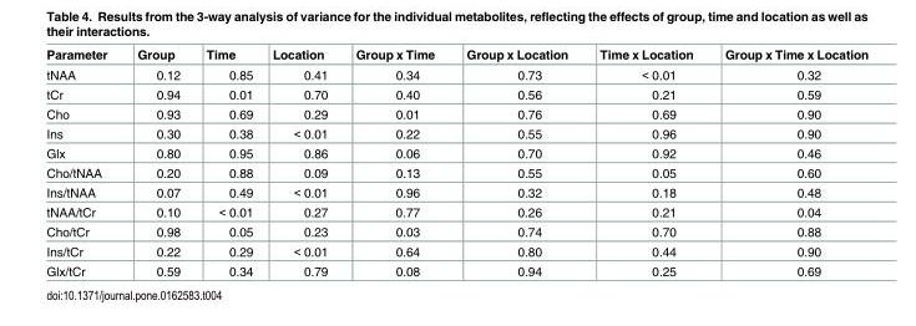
<table><thead><tr><td>Parameter</td><td>Group</td><td>Time</td><td>Location</td><td>Group x Time</td><td>Group x Location</td><td>Time x Location</td><td>Group x Time x Location</td></tr></thead><tbody><tr><td>tNAA</td><td>0.12</td><td>0.85</td><td>0.41</td><td>0.34</td><td>0.73</td><td>&lt; 0.01</td><td>0.32</td></tr><tr><td>tCr</td><td>0.94</td><td>0.01</td><td>0.70</td><td>0.40</td><td>0.56</td><td>0.21</td><td>0.59</td></tr><tr><td>Cho</td><td>0.93</td><td>0.69</td><td>0.29</td><td>0.01</td><td>0.76</td><td>0.69</td><td>0.90</td></tr><tr><td>Ins</td><td>0.30</td><td>0.38</td><td>&lt; 0.01</td><td>0.22</td><td>0.55</td><td>0.96</td><td>0.90</td></tr><tr><td>Glx</td><td>0.80</td><td>0.95</td><td>0.86</td><td>0.06</td><td>0.70</td><td>0.92</td><td>0.46</td></tr><tr><td>Cho/tNAA</td><td>0.20</td><td>0.88</td><td>0.09</td><td>0.13</td><td>0.55</td><td>0.05</td><td>0.60</td></tr><tr><td>Ins/tNAA</td><td>0.07</td><td>0.49</td><td>&lt; 0.01</td><td>0.96</td><td>0.32</td><td>0.18</td><td>0.48</td></tr><tr><td>tNAA/tCr</td><td>0.10</td><td>&lt; 0.01</td><td>0.27</td><td>0.77</td><td>0.26</td><td>0.21</td><td>0.04</td></tr><tr><td>Cho/tCr</td><td>0.98</td><td>0.05</td><td>0.23</td><td>0.03</td><td>0.74</td><td>0.70</td><td>0.88</td></tr><tr><td>Ins/tCr</td><td>0.22</td><td>0.29</td><td>&lt; 0.01</td><td>0.64</td><td>0.80</td><td>0.44</td><td>0.90</td></tr><tr><td>Glx/tCr</td><td>0.59</td><td>0.34</td><td>0.79</td><td>0.08</td><td>0.94</td><td>0.25</td><td>0.69</td></tr></tbody></table>